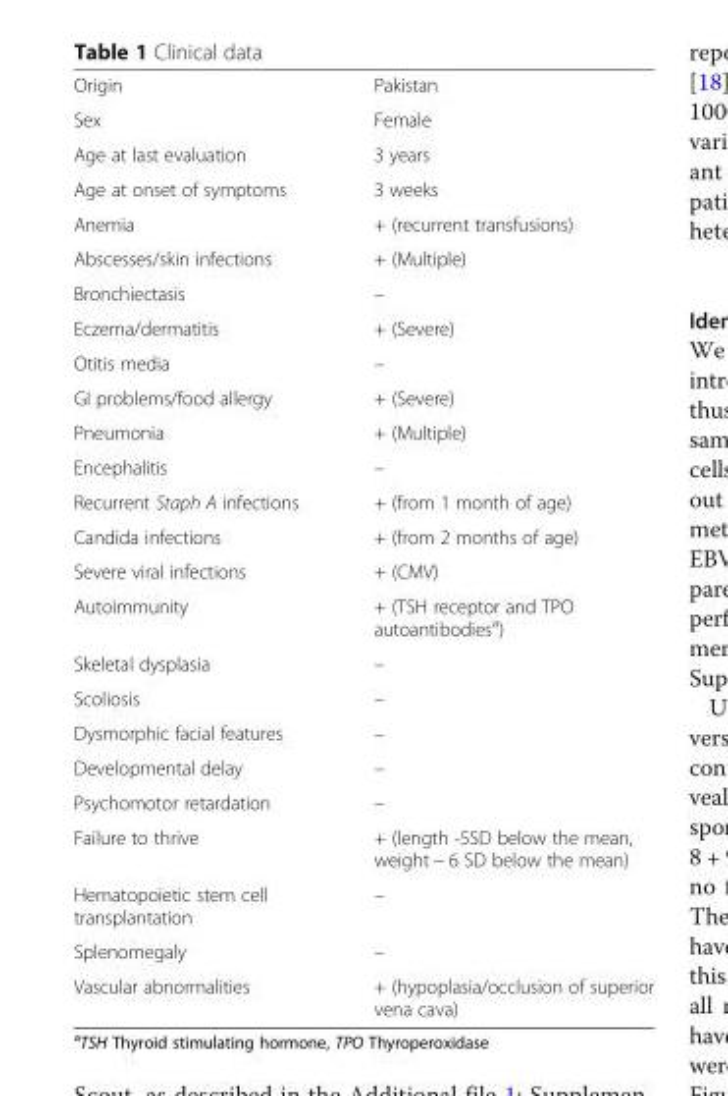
<table><tbody><tr><td>Origin</td><td>Pakistan</td></tr><tr><td>Sex</td><td>Female</td></tr><tr><td>Age at last evaluation</td><td>3 years</td></tr><tr><td>Age at onset of symptoms</td><td>3 weeks</td></tr><tr><td>Anemia</td><td>+ (recurrent transfusions)</td></tr><tr><td>Abscesses/skin infections</td><td>+ (Multiple)</td></tr><tr><td>Bronchiectasis</td><td>–</td></tr><tr><td>Eczema/dermatitis</td><td>+ (Severe)</td></tr><tr><td>Otitis media</td><td>–</td></tr><tr><td>GI problems/food allergy</td><td>+ (Severe)</td></tr><tr><td>Pneumonia</td><td>+ (Multiple)</td></tr><tr><td>Encephalitis</td><td>–</td></tr><tr><td>Recurrent Staph A infections</td><td>+ (from 1 month of age)</td></tr><tr><td>Candida infections</td><td>+ (from 2 months of age)</td></tr><tr><td>Severe viral infections</td><td>+ (CMV)</td></tr><tr><td>Autoimmunity</td><td>+ (TSH receptor and TPO autoantibodies<sup>a</sup>)</td></tr><tr><td>Skeletal dysplasia</td><td>–</td></tr><tr><td>Scoliosis</td><td>–</td></tr><tr><td>Dysmorphic facial features</td><td>–</td></tr><tr><td>Developmental delay</td><td>–</td></tr><tr><td>Psychomotor retardation</td><td>–</td></tr><tr><td>Failure to thrive</td><td>+ (length -5SD below the mean, weight − 6 SD below the mean)</td></tr><tr><td>Hematopoietic stem cell transplantation</td><td>–</td></tr><tr><td>Splenomegaly</td><td>–</td></tr><tr><td>Vascular abnormalities</td><td>+ (hypoplasia/occlusion of superior vena cava)</td></tr></tbody></table>